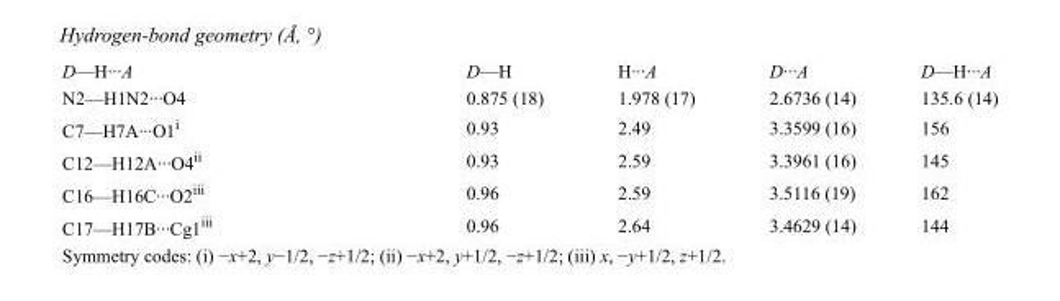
<table><tbody><tr><td>D—H···A</td><td>D—H</td><td>H···A</td><td>D···A</td><td>D—H···A</td></tr><tr><td>N2—H1N2···O4</td><td>0.875 (18)</td><td>1.978 (17)</td><td>2.6736 (14)</td><td>135.6 (14)</td></tr><tr><td>C7—H7A···O1<sup>i</sup></td><td>0.93</td><td>2.49</td><td>3.3599 (16)</td><td>156</td></tr><tr><td>C12—H12A···O4<sup>ii</sup></td><td>0.93</td><td>2.59</td><td>3.3961 (16)</td><td>145</td></tr><tr><td>C16—H16C···O2<sup>iii</sup></td><td>0.96</td><td>2.59</td><td>3.5116 (19)</td><td>162</td></tr><tr><td>C17—H17B···Cg1<sup>iii</sup></td><td>0.96</td><td>2.64</td><td>3.4629 (14)</td><td>144</td></tr></tbody></table>